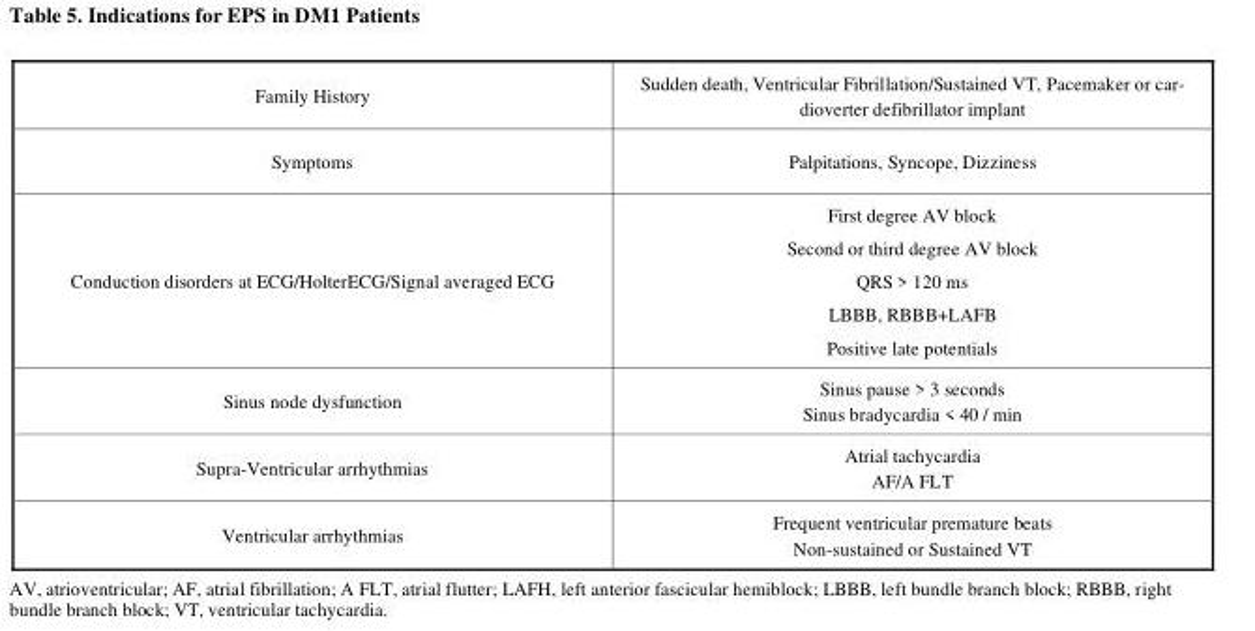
<table><tbody><tr><td>Family History</td><td>Sudden death, Ventricular Fibrillation/Sustained VT, Pacemaker or car- dioverter defibrillator implant</td></tr><tr><td>Symptoms</td><td>Palpitations, Syncope, Dizziness</td></tr><tr><td>Conduction disorders at ECG/HolterECG/Signal averaged ECG</td><td>First degree AV block Second or third degree AV block QRS &gt; 120 ms LBBB, RBBB+LAFB Positive late potentials</td></tr><tr><td>Sinus node dysfunction</td><td>Sinus pause &gt; 3 seconds Sinus bradycardia &lt; 40 / min</td></tr><tr><td>Supra-Ventricular arrhythmias</td><td>Atrial tachycardia AF/A FLT</td></tr><tr><td>Ventricular arrhythmias</td><td>Frequent ventricular premature beats Non-sustained or Sustained VT</td></tr></tbody></table>